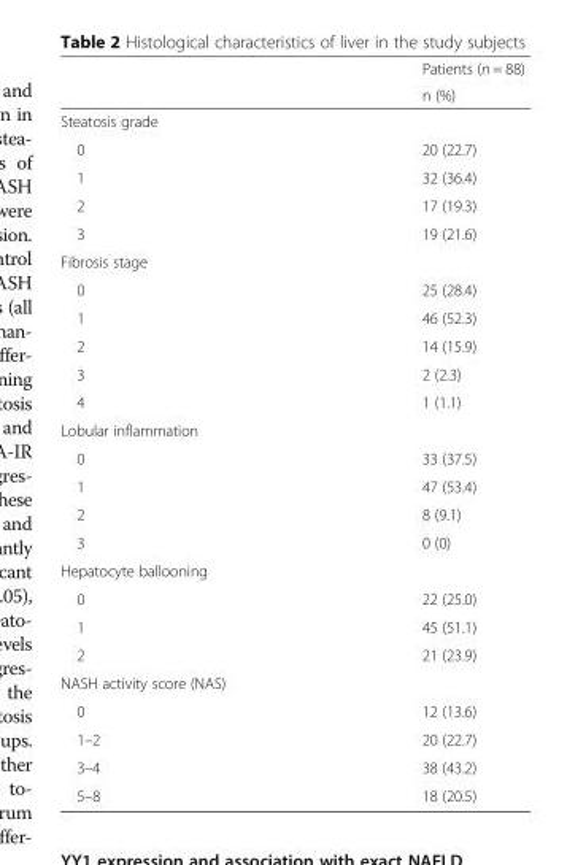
<table><thead><tr><td rowspan="2"></td><td rowspan="2">Patients (n = 88) n (%)</td></tr><tr></tr></thead><tbody><tr><td colspan="2">Steatosis grade</td></tr><tr><td>0</td><td>20 (22.7)</td></tr><tr><td>1</td><td>32 (36.4)</td></tr><tr><td>2</td><td>17 (19.3)</td></tr><tr><td>3</td><td>19 (21.6)</td></tr><tr><td colspan="2">Fibrosis stage</td></tr><tr><td>0</td><td>25 (28.4)</td></tr><tr><td>1</td><td>46 (52.3)</td></tr><tr><td>2</td><td>14 (15.9)</td></tr><tr><td>3</td><td>2 (2.3)</td></tr><tr><td>4</td><td>1 (1.1)</td></tr><tr><td colspan="2">Lobular inflammation</td></tr><tr><td>0</td><td>33 (37.5)</td></tr><tr><td>1</td><td>47 (53.4)</td></tr><tr><td>2</td><td>8 (9.1)</td></tr><tr><td>3</td><td>0 (0)</td></tr><tr><td colspan="2">Hepatocyte ballooning</td></tr><tr><td>0</td><td>22 (25.0)</td></tr><tr><td>1</td><td>45 (51.1)</td></tr><tr><td>2</td><td>21 (23.9)</td></tr><tr><td colspan="2">NASH activity score (NAS)</td></tr><tr><td>0</td><td>12 (13.6)</td></tr><tr><td>1–2</td><td>20 (22.7)</td></tr><tr><td>3–4</td><td>38 (43.2)</td></tr><tr><td>5–8</td><td>18 (20.5)</td></tr></tbody></table>